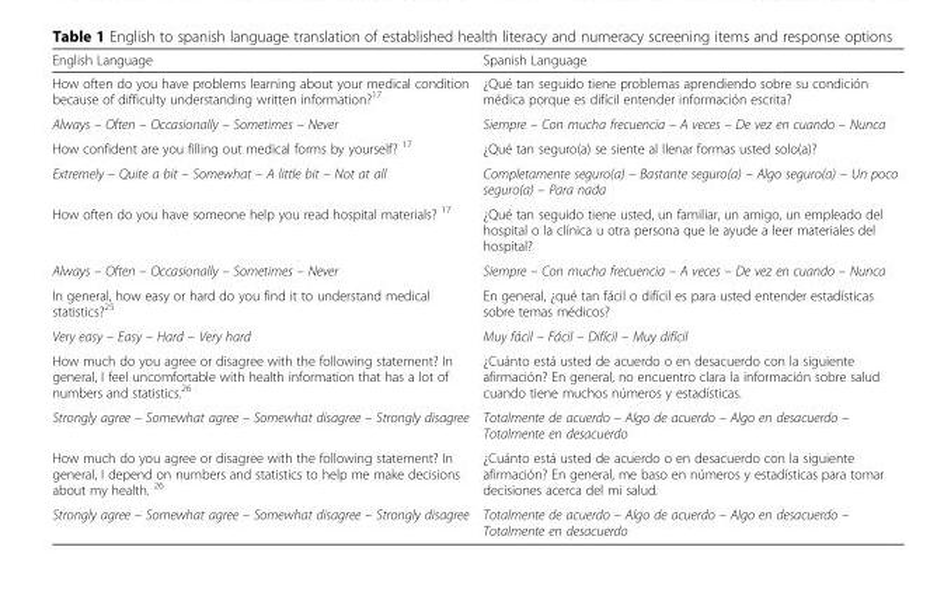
<table><thead><tr><td>English Language</td><td>Spanish Language</td></tr></thead><tbody><tr><td>How often do you have problems learning about your medical condition because of difficulty understanding written information?<sup>17</sup></td><td>¿Qué tan seguido tiene problemas aprendiendo sobre su condición médica porque es difícil entender información escrita?</td></tr><tr><td>Always – Often – Occasionally – Sometimes – Never</td><td>Siempre – Con mucha frecuencia – A veces – De vez en cuando – Nunca</td></tr><tr><td>How confident are you filling out medical forms by yourself? <sup>17</sup></td><td>¿Qué tan seguro(a) se siente al llenar formas usted solo(a)?</td></tr><tr><td>Extremely – Quite a bit – Somewhat – A little bit – Not at all</td><td>Completamente seguro(a) – Bastante seguro(a) – Algo seguro(a) – Un poco seguro(a) – Para nada</td></tr><tr><td>How often do you have someone help you read hospital materials? <sup>17</sup></td><td>¿Qué tan seguido tiene usted, un familiar, un amigo, un empleado del hospital o la clínica u otra persona que le ayude a leer materiales del hospital?</td></tr><tr><td>Always – Often – Occasionally – Sometimes – Never</td><td>Siempre – Con mucha frecuencia – A veces – De vez en cuando – Nunca</td></tr><tr><td>In general, how easy or hard do you find it to understand medical statistics?<sup>25</sup></td><td>En general, ¿qué tan fácil o difícil es para usted entender estadísticas sobre temas médicos?</td></tr><tr><td>Very easy – Easy – Hard – Very hard</td><td>Muy fácil – Fácil – Difícil – Muy difícil</td></tr><tr><td>How much do you agree or disagree with the following statement? In general, I feel uncomfortable with health information that has a lot of numbers and statistics.<sup>26</sup></td><td>¿Cuánto está usted de acuerdo o en desacuerdo con la siguiente afirmación? En general, no encuentro clara la información sobre salud cuando tiene muchos números y estadísticas.</td></tr><tr><td>Strongly agree – Somewhat agree – Somewhat disagree – Strongly disagree</td><td>Totalmente de acuerdo – Algo de acuerdo – Algo en desacuerdo – Totalmente en desacuerdo</td></tr><tr><td>How much do you agree or disagree with the following statement? In general, I depend on numbers and statistics to help me make decisions about my health. <sup>26</sup></td><td>¿Cuánto está usted de acuerdo o en desacuerdo con la siguiente afirmación? En general, me baso en números y estadísticas para tomar decisiones acerca del mi salud.</td></tr><tr><td>Strongly agree – Somewhat agree – Somewhat disagree – Strongly disagree</td><td>Totalmente de acuerdo – Algo de acuerdo – Algo en desacuerdo – Totalmente en desacuerdo</td></tr></tbody></table>